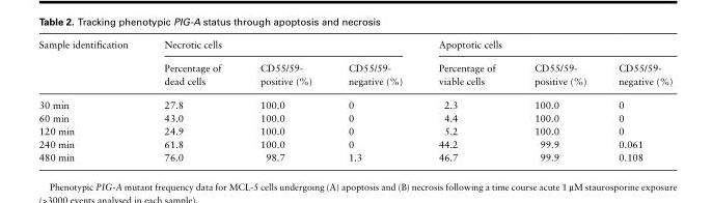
<table><thead><tr><td rowspan="2">Sample identification</td><td colspan="3">Necrotic cells</td><td colspan="3">Apoptotic cells</td></tr><tr><td>Percentage of dead cells</td><td>CD55/59- positive (%)</td><td>CD55/59- negative (%)</td><td>Percentage of viable cells</td><td>CD55/59- positive (%)</td><td>CD55/59- negative (%)</td></tr></thead><tbody><tr><td>30 min</td><td>27.8</td><td>100.0</td><td>0</td><td>2.3</td><td>100.0</td><td>0</td></tr><tr><td>60 min</td><td>43.0</td><td>100.0</td><td>0</td><td>4.4</td><td>100.0</td><td>0</td></tr><tr><td>120 min</td><td>24.9</td><td>100.0</td><td>0</td><td>5.2</td><td>100.0</td><td>0</td></tr><tr><td>240 min</td><td>61.8</td><td>100.0</td><td>0</td><td>44.2</td><td>99.9</td><td>0.061</td></tr><tr><td>480 min</td><td>76.0</td><td>98.7</td><td>1.3</td><td>46.7</td><td>99.9</td><td>0.108</td></tr></tbody></table>